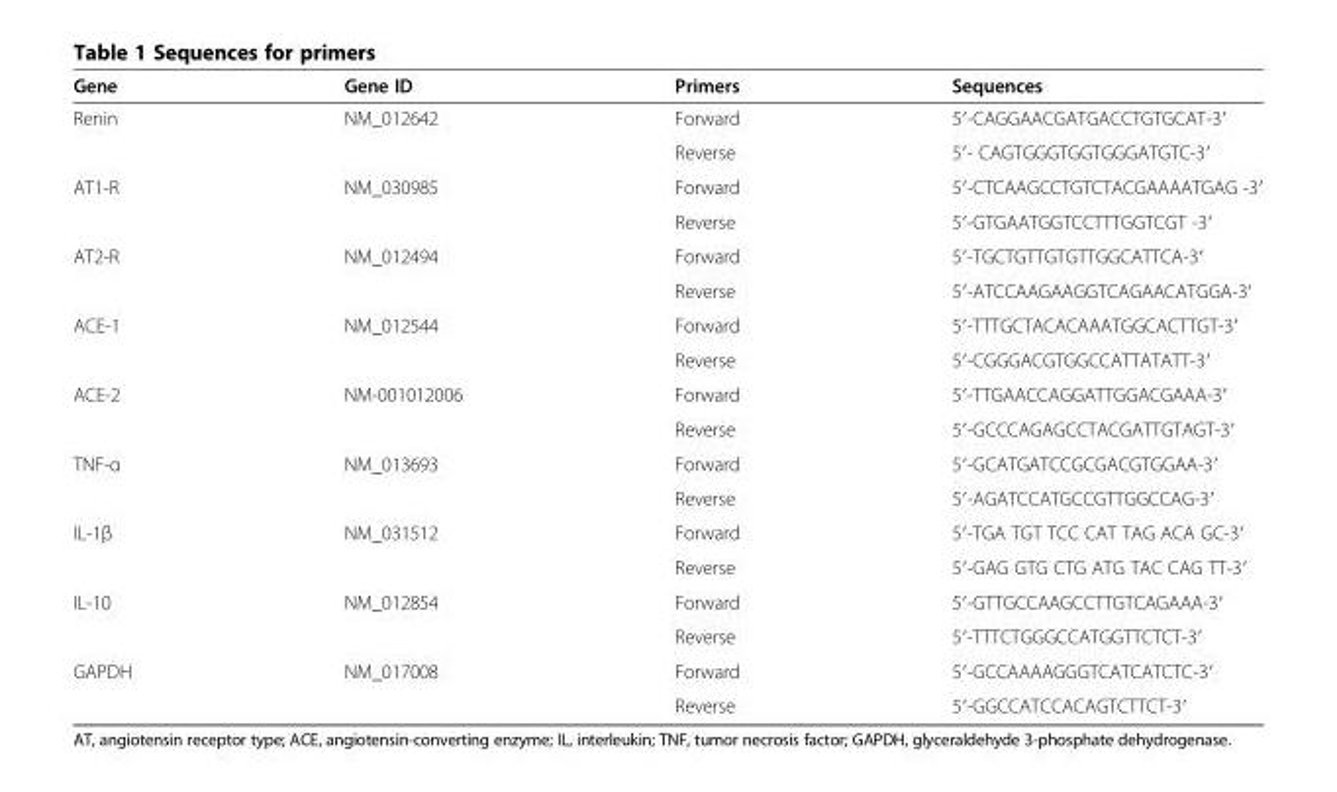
<table><thead><tr><td>Gene</td><td>Gene ID</td><td>Primers</td><td>Sequences</td></tr></thead><tbody><tr><td rowspan="2">Renin</td><td rowspan="2">NM_012642</td><td>Forward</td><td>5′-CAGGAACGATGACCTGTGCAT-3′</td></tr><tr><td>Reverse</td><td>5′- CAGTGGGTGGTGGGATGTC-3′</td></tr><tr><td rowspan="2">AT1-R</td><td rowspan="2">NM_030985</td><td>Forward</td><td>5′-CTCAAGCCTGTCTACGAAAATGAG -3′</td></tr><tr><td>Reverse</td><td>5′-GTGAATGGTCCTTTGGTCGT -3′</td></tr><tr><td rowspan="2">AT2-R</td><td rowspan="2">NM_012494</td><td>Forward</td><td>5′-TGCTGTTGTGTTGGCATTCA-3′</td></tr><tr><td>Reverse</td><td>5′-ATCCAAGAAGGTCAGAACATGGA-3′</td></tr><tr><td rowspan="2">ACE-1</td><td rowspan="2">NM_012544</td><td>Forward</td><td>5′-TTTGCTACACAAATGGCACTTGT-3′</td></tr><tr><td>Reverse</td><td>5′-CGGGACGTGGCCATTATATT-3′</td></tr><tr><td rowspan="2">ACE-2</td><td rowspan="2">NM-001012006</td><td>Forward</td><td>5′-TTGAACCAGGATTGGACGAAA-3′</td></tr><tr><td>Reverse</td><td>5′-GCCCAGAGCCTACGATTGTAGT-3′</td></tr><tr><td rowspan="2">TNF-α</td><td rowspan="2">NM_013693</td><td>Forward</td><td>5′-GCATGATCCGCGACGTGGAA-3′</td></tr><tr><td>Reverse</td><td>5′-AGATCCATGCCGTTGGCCAG-3′</td></tr><tr><td rowspan="2">IL-1β</td><td rowspan="2">NM_031512</td><td>Forward</td><td>5′-TGA TGT TCC CAT TAG ACA GC-3′</td></tr><tr><td>Reverse</td><td>5′-GAG GTG CTG ATG TAC CAG TT-3′</td></tr><tr><td rowspan="2">IL-10</td><td rowspan="2">NM_012854</td><td>Forward</td><td>5′-GTTGCCAAGCCTTGTCAGAAA-3′</td></tr><tr><td>Reverse</td><td>5′-TTTCTGGGCCATGGTTCTCT-3′</td></tr><tr><td rowspan="2">GAPDH</td><td rowspan="2">NM_017008</td><td>Forward</td><td>5′-GCCAAAAGGGTCATCATCTC-3′</td></tr><tr><td>Reverse</td><td>5′-GGCCATCCACAGTCTTCT-3′</td></tr></tbody></table>